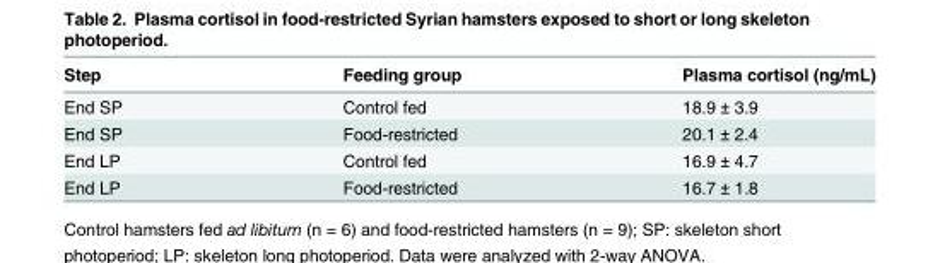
<table><thead><tr><td>Step</td><td>Feeding group</td><td>Plasma cortisol (ng/mL)</td></tr></thead><tbody><tr><td>End SP</td><td>Control fed</td><td>18.9 ± 3.9</td></tr><tr><td>End SP</td><td>Food-restricted</td><td>20.1 ± 2.4</td></tr><tr><td>End LP</td><td>Control fed</td><td>16.9 ± 4.7</td></tr><tr><td>End LP</td><td>Food-restricted</td><td>16.7 ± 1.8</td></tr></tbody></table>